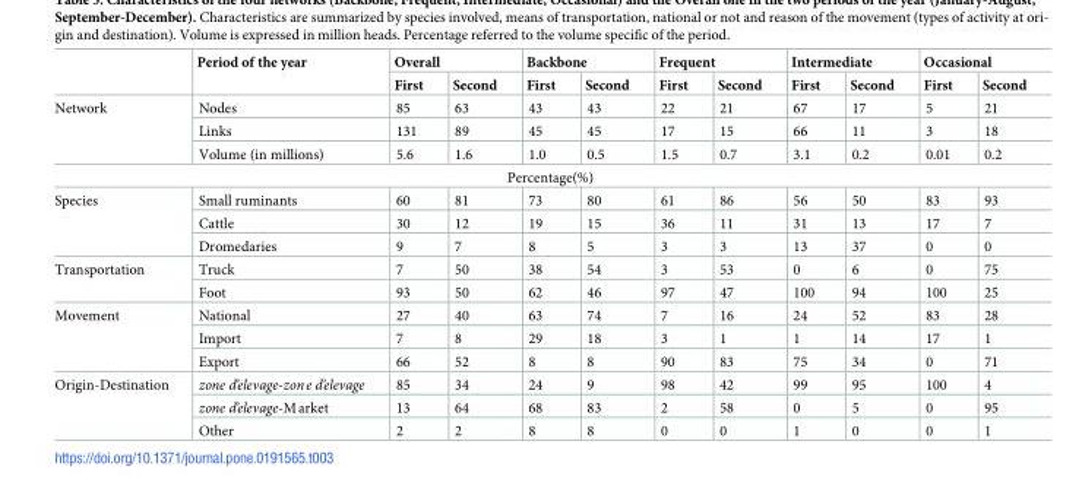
<table><thead><tr><td rowspan="2"></td><td rowspan="2">Period of the year</td><td colspan="2">Overall</td><td colspan="2">Backbone</td><td colspan="2">Frequent</td><td colspan="2">Intermediate</td><td colspan="2">Occasional</td></tr><tr><td>First</td><td>Second</td><td>First</td><td>Second</td><td>First</td><td>Second</td><td>First</td><td>Second</td><td>First</td><td>Second</td></tr></thead><tbody><tr><td rowspan="3">Network</td><td>Nodes</td><td>85</td><td>63</td><td>43</td><td>43</td><td>22</td><td>21</td><td>67</td><td>17</td><td>5</td><td>21</td></tr><tr><td>Links</td><td>131</td><td>89</td><td>45</td><td>45</td><td>17</td><td>15</td><td>66</td><td>11</td><td>3</td><td>18</td></tr><tr><td>Volume (in millions)</td><td>5.6</td><td>1.6</td><td>1.0</td><td>0.5</td><td>1.5</td><td>0.7</td><td>3.1</td><td>0.2</td><td>0.01</td><td>0.2</td></tr><tr><td colspan="12">Percentage(%)</td></tr><tr><td rowspan="3">Species</td><td>Small ruminants</td><td>60</td><td>81</td><td>73</td><td>80</td><td>61</td><td>86</td><td>56</td><td>50</td><td>83</td><td>93</td></tr><tr><td>Cattle</td><td>30</td><td>12</td><td>19</td><td>15</td><td>36</td><td>11</td><td>31</td><td>13</td><td>17</td><td>7</td></tr><tr><td>Dromedaries</td><td>9</td><td>7</td><td>8</td><td>5</td><td>3</td><td>3</td><td>13</td><td>37</td><td>0</td><td>0</td></tr><tr><td rowspan="2">Transportation</td><td>Truck</td><td>7</td><td>50</td><td>38</td><td>54</td><td>3</td><td>53</td><td>0</td><td>6</td><td>0</td><td>75</td></tr><tr><td>Foot</td><td>93</td><td>50</td><td>62</td><td>46</td><td>97</td><td>47</td><td>100</td><td>94</td><td>100</td><td>25</td></tr><tr><td rowspan="3">Movement</td><td>National</td><td>27</td><td>40</td><td>63</td><td>74</td><td>7</td><td>16</td><td>24</td><td>52</td><td>83</td><td>28</td></tr><tr><td>Import</td><td>7</td><td>8</td><td>29</td><td>18</td><td>3</td><td>1</td><td>1</td><td>14</td><td>17</td><td>1</td></tr><tr><td>Export</td><td>66</td><td>52</td><td>8</td><td>8</td><td>90</td><td>83</td><td>75</td><td>34</td><td>0</td><td>71</td></tr><tr><td rowspan="3">Origin-Destination</td><td>zone d’elevage-zone d’elevage</td><td>85</td><td>34</td><td>24</td><td>9</td><td>98</td><td>42</td><td>99</td><td>95</td><td>100</td><td>4</td></tr><tr><td>zone d’elevage-Market</td><td>13</td><td>64</td><td>68</td><td>83</td><td>2</td><td>58</td><td>0</td><td>5</td><td>0</td><td>95</td></tr><tr><td>Other</td><td>2</td><td>2</td><td>8</td><td>8</td><td>0</td><td>0</td><td>1</td><td>0</td><td>0</td><td>1</td></tr></tbody></table>